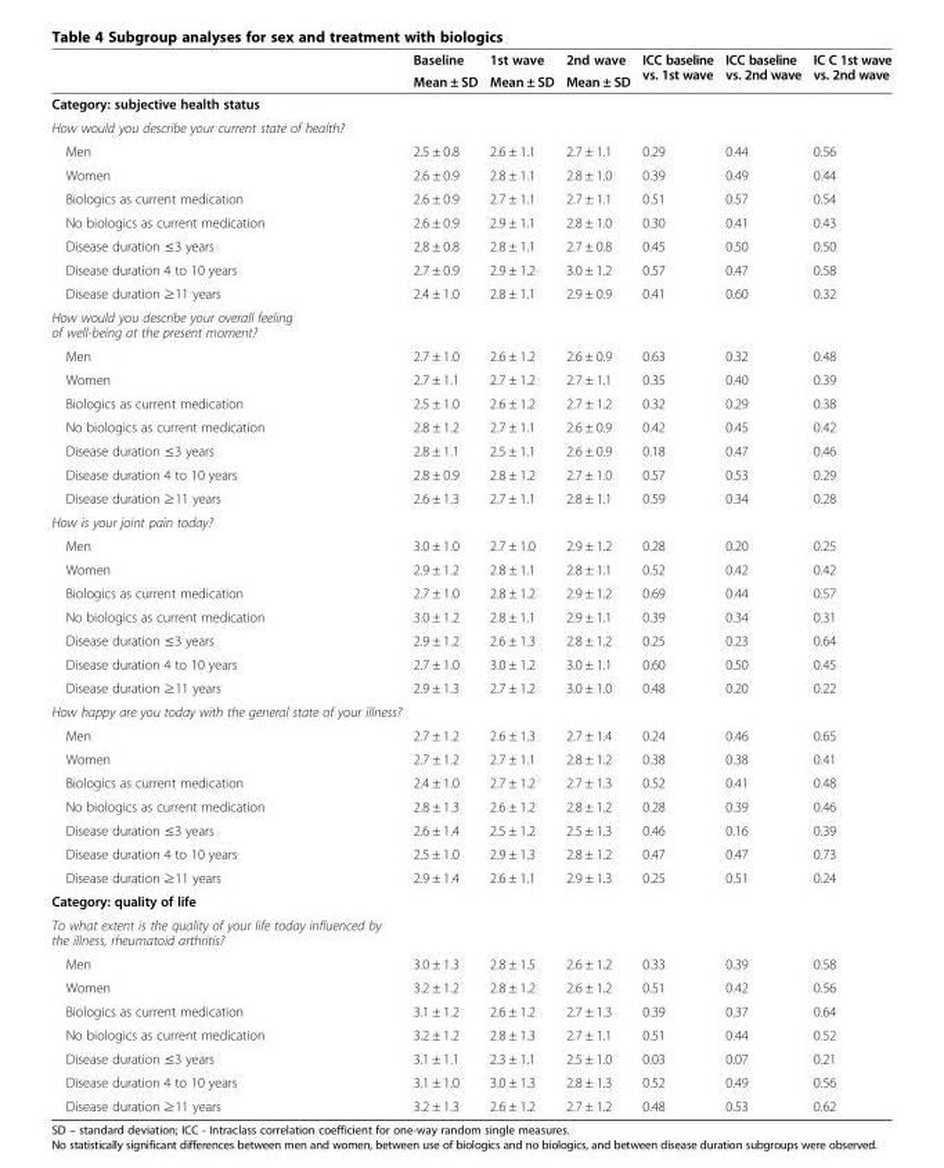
<table><thead><tr><td rowspan="2"></td><td rowspan="2">Baseline Mean ± SD</td><td rowspan="2">1st wave Mean ± SD</td><td rowspan="2">2nd wave Mean ± SD</td><td rowspan="2">ICC baseline vs. 1st wave</td><td rowspan="2">ICC baseline vs. 2nd wave</td><td rowspan="2">IC C 1st wave vs. 2nd wave</td></tr><tr></tr></thead><tbody><tr><td colspan="7">Category: subjective health status</td></tr><tr><td colspan="7">How would you describe your current state of health?</td></tr><tr><td>Men</td><td>2.5 ± 0.8</td><td>2.6 ± 1.1</td><td>2.7 ± 1.1</td><td>0.29</td><td>0.44</td><td>0.56</td></tr><tr><td>Women</td><td>2.6 ± 0.9</td><td>2.8 ± 1.1</td><td>2.8 ± 1.0</td><td>0.39</td><td>0.49</td><td>0.44</td></tr><tr><td>Biologics as current medication</td><td>2.6 ± 0.9</td><td>2.7 ± 1.1</td><td>2.7 ± 1.1</td><td>0.51</td><td>0.57</td><td>0.54</td></tr><tr><td>No biologics as current medication</td><td>2.6 ± 0.9</td><td>2.9 ± 1.1</td><td>2.8 ± 1.0</td><td>0.30</td><td>0.41</td><td>0.43</td></tr><tr><td>Disease duration ≤3 years</td><td>2.8 ± 0.8</td><td>2.8 ± 1.1</td><td>2.7 ± 0.8</td><td>0.45</td><td>0.50</td><td>0.50</td></tr><tr><td>Disease duration 4 to 10 years</td><td>2.7 ± 0.9</td><td>2.9 ± 1.2</td><td>3.0 ± 1.2</td><td>0.57</td><td>0.47</td><td>0.58</td></tr><tr><td>Disease duration ≥11 years</td><td>2.4 ± 1.0</td><td>2.8 ± 1.1</td><td>2.9 ± 0.9</td><td>0.41</td><td>0.60</td><td>0.32</td></tr><tr><td colspan="7">How would you describe your overall feeling of well-being at the present moment?</td></tr><tr><td>Men</td><td>2.7 ± 1.0</td><td>2.6 ± 1.2</td><td>2.6 ± 0.9</td><td>0.63</td><td>0.32</td><td>0.48</td></tr><tr><td>Women</td><td>2.7 ± 1.1</td><td>2.7 ± 1.2</td><td>2.7 ± 1.1</td><td>0.35</td><td>0.40</td><td>0.39</td></tr><tr><td>Biologics as current medication</td><td>2.5 ± 1.0</td><td>2.6 ± 1.2</td><td>2.7 ± 1.2</td><td>0.32</td><td>0.29</td><td>0.38</td></tr><tr><td>No biologics as current medication</td><td>2.8 ± 1.2</td><td>2.7 ± 1.1</td><td>2.6 ± 0.9</td><td>0.42</td><td>0.45</td><td>0.42</td></tr><tr><td>Disease duration ≤3 years</td><td>2.8 ± 1.1</td><td>2.5 ± 1.1</td><td>2.6 ± 0.9</td><td>0.18</td><td>0.47</td><td>0.46</td></tr><tr><td>Disease duration 4 to 10 years</td><td>2.8 ± 0.9</td><td>2.8 ± 1.2</td><td>2.7 ± 1.0</td><td>0.57</td><td>0.53</td><td>0.29</td></tr><tr><td>Disease duration ≥11 years</td><td>2.6 ± 1.3</td><td>2.7 ± 1.1</td><td>2.8 ± 1.1</td><td>0.59</td><td>0.34</td><td>0.28</td></tr><tr><td colspan="7">How is your joint pain today?</td></tr><tr><td>Men</td><td>3.0 ± 1.0</td><td>2.7 ± 1.0</td><td>2.9 ± 1.2</td><td>0.28</td><td>0.20</td><td>0.25</td></tr><tr><td>Women</td><td>2.9 ± 1.2</td><td>2.8 ± 1.1</td><td>2.8 ± 1.1</td><td>0.52</td><td>0.42</td><td>0.42</td></tr><tr><td>Biologics as current medication</td><td>2.7 ± 1.0</td><td>2.8 ± 1.2</td><td>2.9 ± 1.2</td><td>0.69</td><td>0.44</td><td>0.57</td></tr><tr><td>No biologics as current medication</td><td>3.0 ± 1.2</td><td>2.8 ± 1.1</td><td>2.9 ± 1.1</td><td>0.39</td><td>0.34</td><td>0.31</td></tr><tr><td>Disease duration ≤3 years</td><td>2.9 ± 1.2</td><td>2.6 ± 1.3</td><td>2.8 ± 1.2</td><td>0.25</td><td>0.23</td><td>0.64</td></tr><tr><td>Disease duration 4 to 10 years</td><td>2.7 ± 1.0</td><td>3.0 ± 1.2</td><td>3.0 ± 1.1</td><td>0.60</td><td>0.50</td><td>0.45</td></tr><tr><td>Disease duration ≥11 years</td><td>2.9 ± 1.3</td><td>2.7 ± 1.2</td><td>3.0 ± 1.0</td><td>0.48</td><td>0.20</td><td>0.22</td></tr><tr><td colspan="7">How happy are you today with the general state of your illness?</td></tr><tr><td>Men</td><td>2.7 ± 1.2</td><td>2.6 ± 1.3</td><td>2.7 ± 1.4</td><td>0.24</td><td>0.46</td><td>0.65</td></tr><tr><td>Women</td><td>2.7 ± 1.2</td><td>2.7 ± 1.1</td><td>2.8 ± 1.2</td><td>0.38</td><td>0.38</td><td>0.41</td></tr><tr><td>Biologics as current medication</td><td>2.4 ± 1.0</td><td>2.7 ± 1.2</td><td>2.7 ± 1.3</td><td>0.52</td><td>0.41</td><td>0.48</td></tr><tr><td>No biologics as current medication</td><td>2.8 ± 1.3</td><td>2.6 ± 1.2</td><td>2.8 ± 1.2</td><td>0.28</td><td>0.39</td><td>0.46</td></tr><tr><td>Disease duration ≤3 years</td><td>2.6 ± 1.4</td><td>2.5 ± 1.2</td><td>2.5 ± 1.3</td><td>0.46</td><td>0.16</td><td>0.39</td></tr><tr><td>Disease duration 4 to 10 years</td><td>2.5 ± 1.0</td><td>2.9 ± 1.3</td><td>2.8 ± 1.2</td><td>0.47</td><td>0.47</td><td>0.73</td></tr><tr><td>Disease duration ≥11 years</td><td>2.9 ± 1.4</td><td>2.6 ± 1.1</td><td>2.9 ± 1.3</td><td>0.25</td><td>0.51</td><td>0.24</td></tr><tr><td colspan="7">Category: quality of life</td></tr><tr><td colspan="7">To what extent is the quality of your life today influenced by the illness, rheumatoid arthritis?</td></tr><tr><td>Men</td><td>3.0 ± 1.3</td><td>2.8 ± 1.5</td><td>2.6 ± 1.2</td><td>0.33</td><td>0.39</td><td>0.58</td></tr><tr><td>Women</td><td>3.2 ± 1.2</td><td>2.8 ± 1.2</td><td>2.6 ± 1.2</td><td>0.51</td><td>0.42</td><td>0.56</td></tr><tr><td>Biologics as current medication</td><td>3.1 ± 1.2</td><td>2.6 ± 1.2</td><td>2.7 ± 1.3</td><td>0.39</td><td>0.37</td><td>0.64</td></tr><tr><td>No biologics as current medication</td><td>3.2 ± 1.2</td><td>2.8 ± 1.3</td><td>2.7 ± 1.1</td><td>0.51</td><td>0.44</td><td>0.52</td></tr><tr><td>Disease duration ≤3 years</td><td>3.1 ± 1.1</td><td>2.3 ± 1.1</td><td>2.5 ± 1.0</td><td>0.03</td><td>0.07</td><td>0.21</td></tr><tr><td>Disease duration 4 to 10 years</td><td>3.1 ± 1.0</td><td>3.0 ± 1.3</td><td>2.8 ± 1.3</td><td>0.52</td><td>0.49</td><td>0.56</td></tr><tr><td>Disease duration ≥11 years</td><td>3.2 ± 1.3</td><td>2.6 ± 1.2</td><td>2.7 ± 1.2</td><td>0.48</td><td>0.53</td><td>0.62</td></tr></tbody></table>